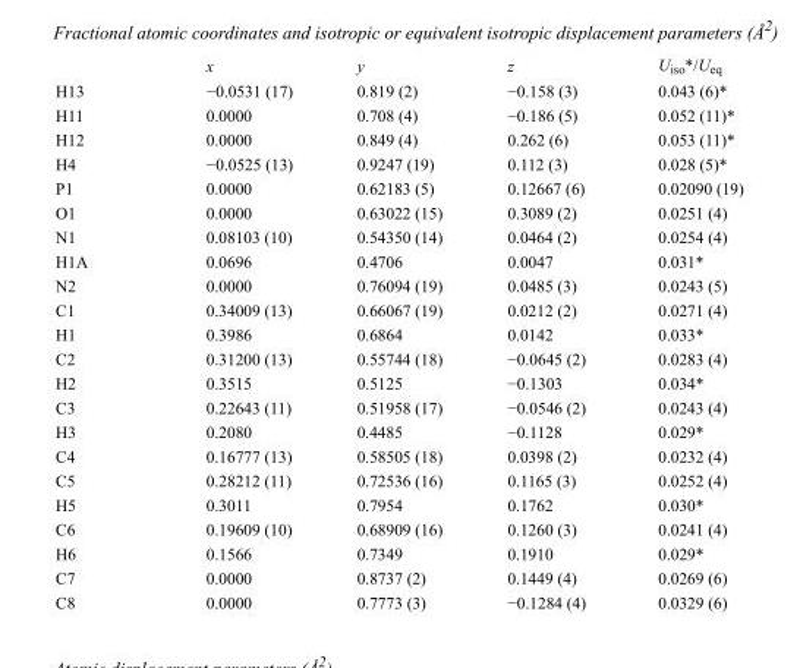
<table><thead><tr><td></td><td>x</td><td>y</td><td>z</td><td>U<sub>iso</sub>*/U<sub>eq</sub></td></tr></thead><tbody><tr><td>H13</td><td>−0.0531 (17)</td><td>0.819 (2)</td><td>−0.158 (3)</td><td>0.043 (6)*</td></tr><tr><td>H11</td><td>0.0000</td><td>0.708 (4)</td><td>−0.186 (5)</td><td>0.052 (11)*</td></tr><tr><td>H12</td><td>0.0000</td><td>0.849 (4)</td><td>0.262 (6)</td><td>0.053 (11)*</td></tr><tr><td>H4</td><td>−0.0525 (13)</td><td>0.9247 (19)</td><td>0.112 (3)</td><td>0.028 (5)*</td></tr><tr><td>P1</td><td>0.0000</td><td>0.62183 (5)</td><td>0.12667 (6)</td><td>0.02090 (19)</td></tr><tr><td>O1</td><td>0.0000</td><td>0.63022 (15)</td><td>0.3089 (2)</td><td>0.0251 (4)</td></tr><tr><td>N1</td><td>0.08103 (10)</td><td>0.54350 (14)</td><td>0.0464 (2)</td><td>0.0254 (4)</td></tr><tr><td>H1A</td><td>0.0696</td><td>0.4706</td><td>0.0047</td><td>0.031*</td></tr><tr><td>N2</td><td>0.0000</td><td>0.76094 (19)</td><td>0.0485 (3)</td><td>0.0243 (5)</td></tr><tr><td>C1</td><td>0.34009 (13)</td><td>0.66067 (19)</td><td>0.0212 (2)</td><td>0.0271 (4)</td></tr><tr><td>H1</td><td>0.3986</td><td>0.6864</td><td>0.0142</td><td>0.033*</td></tr><tr><td>C2</td><td>0.31200 (13)</td><td>0.55744 (18)</td><td>−0.0645 (2)</td><td>0.0283 (4)</td></tr><tr><td>H2</td><td>0.3515</td><td>0.5125</td><td>−0.1303</td><td>0.034*</td></tr><tr><td>C3</td><td>0.22643 (11)</td><td>0.51958 (17)</td><td>−0.0546 (2)</td><td>0.0243 (4)</td></tr><tr><td>H3</td><td>0.2080</td><td>0.4485</td><td>−0.1128</td><td>0.029*</td></tr><tr><td>C4</td><td>0.16777 (13)</td><td>0.58505 (18)</td><td>0.0398 (2)</td><td>0.0232 (4)</td></tr><tr><td>C5</td><td>0.28212 (11)</td><td>0.72536 (16)</td><td>0.1165 (3)</td><td>0.0252 (4)</td></tr><tr><td>H5</td><td>0.3011</td><td>0.7954</td><td>0.1762</td><td>0.030*</td></tr><tr><td>C6</td><td>0.19609 (10)</td><td>0.68909 (16)</td><td>0.1260 (3)</td><td>0.0241 (4)</td></tr><tr><td>H6</td><td>0.1566</td><td>0.7349</td><td>0.1910</td><td>0.029*</td></tr><tr><td>C7</td><td>0.0000</td><td>0.8737 (2)</td><td>0.1449 (4)</td><td>0.0269 (6)</td></tr><tr><td>C8</td><td>0.0000</td><td>0.7773 (3)</td><td>−0.1284 (4)</td><td>0.0329 (6)</td></tr></tbody></table>